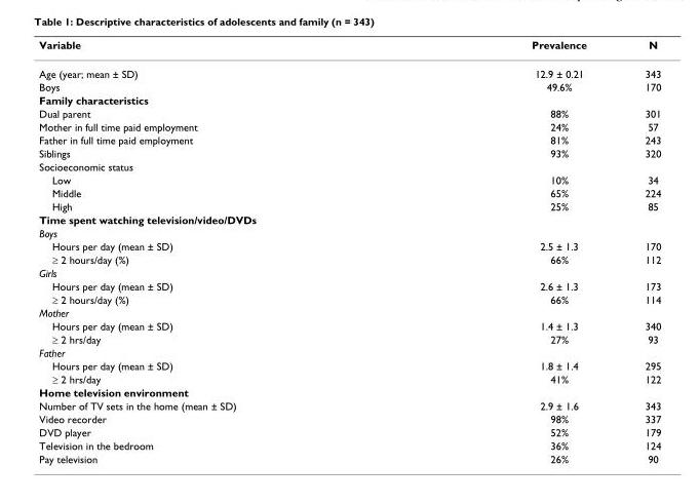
<table><thead><tr><td>Variable</td><td>Prevalence</td><td>N</td></tr></thead><tbody><tr><td>Age (year; mean ± SD)</td><td>12.9 ± 0.21</td><td>343</td></tr><tr><td>Boys</td><td>49.6%</td><td>170</td></tr><tr><td colspan="3">Family characteristics</td></tr><tr><td>Dual parent</td><td>88%</td><td>301</td></tr><tr><td>Mother in full time paid employment</td><td>24%</td><td>57</td></tr><tr><td>Father in full time paid employment</td><td>81%</td><td>243</td></tr><tr><td>Siblings</td><td>93%</td><td>320</td></tr><tr><td colspan="3">Socioeconomic status</td></tr><tr><td>Low</td><td>10%</td><td>34</td></tr><tr><td>Middle</td><td>65%</td><td>224</td></tr><tr><td>High</td><td>25%</td><td>85</td></tr><tr><td colspan="3">Time spent watching television/video/DVDs</td></tr><tr><td colspan="3">Boys</td></tr><tr><td>Hours per day (mean ± SD)</td><td>2.5 ± 1.3</td><td>170</td></tr><tr><td>≥ 2 hours/day (%)</td><td>66%</td><td>112</td></tr><tr><td colspan="3">Girls</td></tr><tr><td>Hours per day (mean ± SD)</td><td>2.6 ± 1.3</td><td>173</td></tr><tr><td>≥ 2 hours/day (%)</td><td>66%</td><td>114</td></tr><tr><td colspan="3">Mother</td></tr><tr><td>Hours per day (mean ± SD)</td><td>1.4 ± 1.3</td><td>340</td></tr><tr><td>≥ 2 hrs/day</td><td>27%</td><td>93</td></tr><tr><td colspan="3">Father</td></tr><tr><td>Hours per day (mean ± SD)</td><td>1.8 ± 1.4</td><td>295</td></tr><tr><td>≥ 2 hrs/day</td><td>41%</td><td>122</td></tr><tr><td colspan="3">Home television environment</td></tr><tr><td>Number of TV sets in the home (mean ± SD)</td><td>2.9 ± 1.6</td><td>343</td></tr><tr><td>Video recorder</td><td>98%</td><td>337</td></tr><tr><td>DVD player</td><td>52%</td><td>179</td></tr><tr><td>Television in the bedroom</td><td>36%</td><td>124</td></tr><tr><td>Pay television</td><td>26%</td><td>90</td></tr></tbody></table>